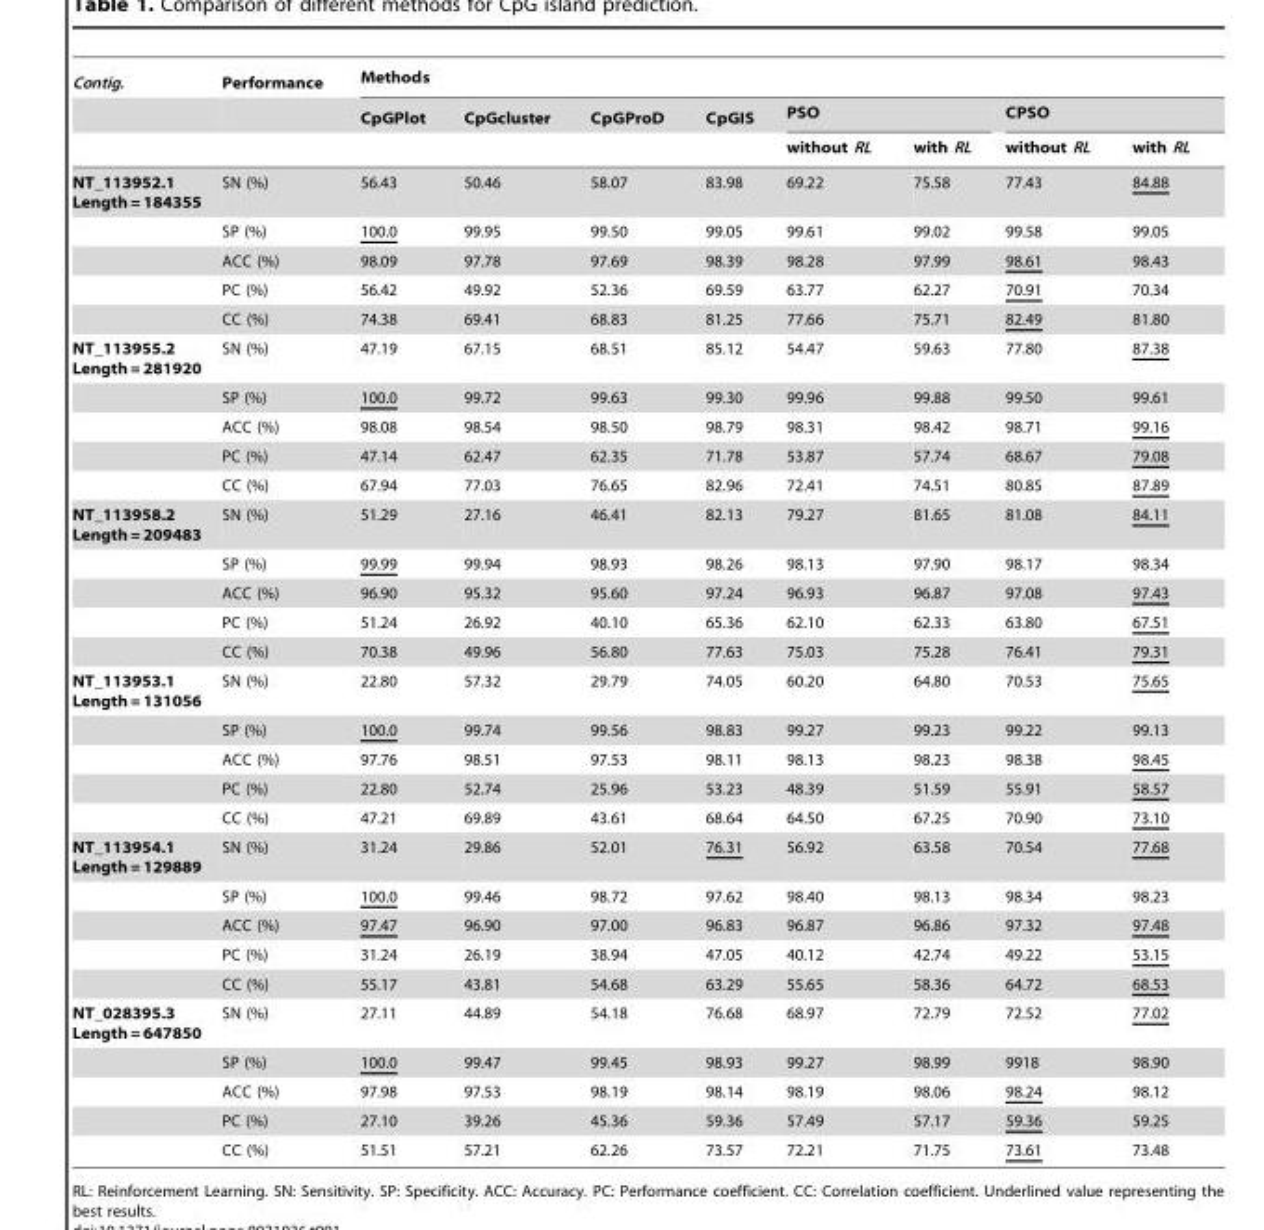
<table><thead><tr><td rowspan="3">Contig.</td><td rowspan="3">Performance</td><td colspan="8">Methods</td></tr><tr><td rowspan="2">CpGPlot</td><td rowspan="2">CpGcluster</td><td rowspan="2">CpGProD</td><td rowspan="2">CpGIS</td><td colspan="2">PSO</td><td colspan="2">CPSO</td></tr><tr><td>without RL</td><td>with RL</td><td>without RL</td><td>with RL</td></tr></thead><tbody><tr><td rowspan="5">NT_113952.1 Length = 184355</td><td>SN (%)</td><td>56.43</td><td>50.46</td><td>58.07</td><td>83.98</td><td>69.22</td><td>75.58</td><td>77.43</td><td>84.88</td></tr><tr><td>SP (%)</td><td>100.0</td><td>99.95</td><td>99.50</td><td>99.05</td><td>99.61</td><td>99.02</td><td>99.58</td><td>99.05</td></tr><tr><td>ACC (%)</td><td>98.09</td><td>97.78</td><td>97.69</td><td>98.39</td><td>98.28</td><td>97.99</td><td>98.61</td><td>98.43</td></tr><tr><td>PC (%)</td><td>56.42</td><td>49.92</td><td>52.36</td><td>69.59</td><td>63.77</td><td>62.27</td><td>70.91</td><td>70.34</td></tr><tr><td>CC (%)</td><td>74.38</td><td>69.41</td><td>68.83</td><td>81.25</td><td>77.66</td><td>75.71</td><td>82.49</td><td>81.80</td></tr><tr><td rowspan="5">NT_113955.2 Length = 281920</td><td>SN (%)</td><td>47.19</td><td>67.15</td><td>68.51</td><td>85.12</td><td>54.47</td><td>59.63</td><td>77.80</td><td>87.38</td></tr><tr><td>SP (%)</td><td>100.0</td><td>99.72</td><td>99.63</td><td>99.30</td><td>99.96</td><td>99.88</td><td>99.50</td><td>99.61</td></tr><tr><td>ACC (%)</td><td>98.08</td><td>98.54</td><td>98.50</td><td>98.79</td><td>98.31</td><td>98.42</td><td>98.71</td><td>99.16</td></tr><tr><td>PC (%)</td><td>47.14</td><td>62.47</td><td>62.35</td><td>71.78</td><td>53.87</td><td>57.74</td><td>68.67</td><td>79.08</td></tr><tr><td>CC (%)</td><td>67.94</td><td>77.03</td><td>76.65</td><td>82.96</td><td>72.41</td><td>74.51</td><td>80.85</td><td>87.89</td></tr><tr><td rowspan="5">NT_113958.2 Length = 209483</td><td>SN (%)</td><td>51.29</td><td>27.16</td><td>46.41</td><td>82.13</td><td>79.27</td><td>81.65</td><td>81.08</td><td>84.11</td></tr><tr><td>SP (%)</td><td>99.99</td><td>99.94</td><td>98.93</td><td>98.26</td><td>98.13</td><td>97.90</td><td>98.17</td><td>98.34</td></tr><tr><td>ACC (%)</td><td>96.90</td><td>95.32</td><td>95.60</td><td>97.24</td><td>96.93</td><td>96.87</td><td>97.08</td><td>97.43</td></tr><tr><td>PC (%)</td><td>51.24</td><td>26.92</td><td>40.10</td><td>65.36</td><td>62.10</td><td>62.33</td><td>63.80</td><td>67.51</td></tr><tr><td>CC (%)</td><td>70.38</td><td>49.96</td><td>56.80</td><td>77.63</td><td>75.03</td><td>75.28</td><td>76.41</td><td>79.31</td></tr><tr><td rowspan="5">NT_113953.1 Length = 131056</td><td>SN (%)</td><td>22.80</td><td>57.32</td><td>29.79</td><td>74.05</td><td>60.20</td><td>64.80</td><td>70.53</td><td>75.65</td></tr><tr><td>SP (%)</td><td>100.0</td><td>99.74</td><td>99.56</td><td>98.83</td><td>99.27</td><td>99.23</td><td>99.22</td><td>99.13</td></tr><tr><td>ACC (%)</td><td>97.76</td><td>98.51</td><td>97.53</td><td>98.11</td><td>98.13</td><td>98.23</td><td>98.38</td><td>98.45</td></tr><tr><td>PC (%)</td><td>22.80</td><td>52.74</td><td>25.96</td><td>53.23</td><td>48.39</td><td>51.59</td><td>55.91</td><td>58.57</td></tr><tr><td>CC (%)</td><td>47.21</td><td>69.89</td><td>43.61</td><td>68.64</td><td>64.50</td><td>67.25</td><td>70.90</td><td>73.10</td></tr><tr><td rowspan="5">NT_113954.1 Length = 129889</td><td>SN (%)</td><td>31.24</td><td>29.86</td><td>52.01</td><td>76.31</td><td>56.92</td><td>63.58</td><td>70.54</td><td>77.68</td></tr><tr><td>SP (%)</td><td>100.0</td><td>99.46</td><td>98.72</td><td>97.62</td><td>98.40</td><td>98.13</td><td>98.34</td><td>98.23</td></tr><tr><td>ACC (%)</td><td>97.47</td><td>96.90</td><td>97.00</td><td>96.83</td><td>96.87</td><td>96.86</td><td>97.32</td><td>97.48</td></tr><tr><td>PC (%)</td><td>31.24</td><td>26.19</td><td>38.94</td><td>47.05</td><td>40.12</td><td>42.74</td><td>49.22</td><td>53.15</td></tr><tr><td>CC (%)</td><td>55.17</td><td>43.81</td><td>54.68</td><td>63.29</td><td>55.65</td><td>58.36</td><td>64.72</td><td>68.53</td></tr><tr><td rowspan="5">NT_028395.3 Length = 647850</td><td>SN (%)</td><td>27.11</td><td>44.89</td><td>54.18</td><td>76.68</td><td>68.97</td><td>72.79</td><td>72.52</td><td>77.02</td></tr><tr><td>SP (%)</td><td>100.0</td><td>99.47</td><td>99.45</td><td>98.93</td><td>99.27</td><td>98.99</td><td>9918</td><td>98.90</td></tr><tr><td>ACC (%)</td><td>97.98</td><td>97.53</td><td>98.19</td><td>98.14</td><td>98.19</td><td>98.06</td><td>98.24</td><td>98.12</td></tr><tr><td>PC (%)</td><td>27.10</td><td>39.26</td><td>45.36</td><td>59.36</td><td>57.49</td><td>57.17</td><td>59.36</td><td>59.25</td></tr><tr><td>CC (%)</td><td>51.51</td><td>57.21</td><td>62.26</td><td>73.57</td><td>72.21</td><td>71.75</td><td>73.61</td><td>73.48</td></tr></tbody></table>